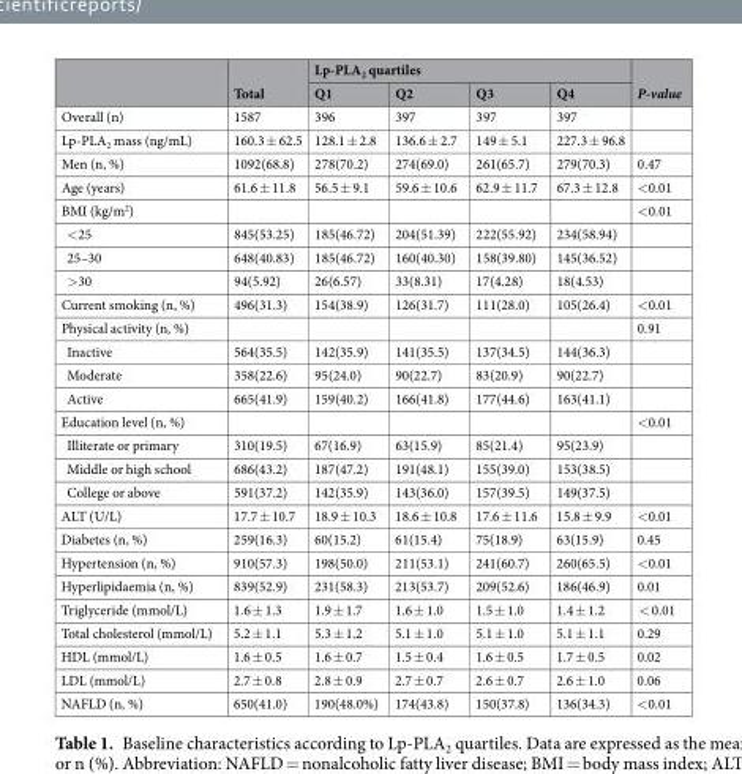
<table><thead><tr><td rowspan="2"></td><td rowspan="2">Total</td><td colspan="4">Lp-PLA<sub>2</sub> quartiles</td><td rowspan="2">P-value</td></tr><tr><td>Q1</td><td>Q2</td><td>Q3</td><td>Q4</td></tr></thead><tbody><tr><td>Overall (n)</td><td>1587</td><td>396</td><td>397</td><td>397</td><td>397</td><td></td></tr><tr><td>Lp-PLA<sub>2</sub> mass (ng/mL)</td><td>160.3 ± 62.5</td><td>128.1 ± 2.8</td><td>136.6 ± 2.7</td><td>149 ± 5.1</td><td>227.3 ± 96.8</td><td></td></tr><tr><td>Men (n, %)</td><td>1092(68.8)</td><td>278(70.2)</td><td>274(69.0)</td><td>261(65.7)</td><td>279(70.3)</td><td>0.47</td></tr><tr><td>Age (years)</td><td>61.6 ± 11.8</td><td>56.5 ± 9.1</td><td>59.6 ± 10.6</td><td>62.9 ± 11.7</td><td>67.3 ± 12.8</td><td>&lt;0.01</td></tr><tr><td>BMI (kg/m<sup>2</sup>)</td><td></td><td></td><td></td><td></td><td></td><td>&lt;0.01</td></tr><tr><td>&lt;25</td><td>845(53.25)</td><td>185(46.72)</td><td>204(51.39)</td><td>222(55.92)</td><td>234(58.94)</td><td></td></tr><tr><td>25–30</td><td>648(40.83)</td><td>185(46.72)</td><td>160(40.30)</td><td>158(39.80)</td><td>145(36.52)</td><td></td></tr><tr><td>&gt;30</td><td>94(5.92)</td><td>26(6.57)</td><td>33(8.31)</td><td>17(4.28)</td><td>18(4.53)</td><td></td></tr><tr><td>Current smoking (n, %)</td><td>496(31.3)</td><td>154(38.9)</td><td>126(31.7)</td><td>111(28.0)</td><td>105(26.4)</td><td>&lt;0.01</td></tr><tr><td>Physical activity (n, %)</td><td></td><td></td><td></td><td></td><td></td><td>0.91</td></tr><tr><td>Inactive</td><td>564(35.5)</td><td>142(35.9)</td><td>141(35.5)</td><td>137(34.5)</td><td>144(36.3)</td><td></td></tr><tr><td>Moderate</td><td>358(22.6)</td><td>95(24.0)</td><td>90(22.7)</td><td>83(20.9)</td><td>90(22.7)</td><td></td></tr><tr><td>Active</td><td>665(41.9)</td><td>159(40.2)</td><td>166(41.8)</td><td>177(44.6)</td><td>163(41.1)</td><td></td></tr><tr><td>Education level (n, %)</td><td></td><td></td><td></td><td></td><td></td><td>&lt;0.01</td></tr><tr><td>Illiterate or primary</td><td>310(19.5)</td><td>67(16.9)</td><td>63(15.9)</td><td>85(21.4)</td><td>95(23.9)</td><td></td></tr><tr><td>Middle or high school</td><td>686(43.2)</td><td>187(47.2)</td><td>191(48.1)</td><td>155(39.0)</td><td>153(38.5)</td><td></td></tr><tr><td>College or above</td><td>591(37.2)</td><td>142(35.9)</td><td>143(36.0)</td><td>157(39.5)</td><td>149(37.5)</td><td></td></tr><tr><td>ALT (U/L)</td><td>17.7 ± 10.7</td><td>18.9 ± 10.3</td><td>18.6 ± 10.8</td><td>17.6 ± 11.6</td><td>15.8 ± 9.9</td><td>&lt;0.01</td></tr><tr><td>Diabetes (n, %)</td><td>259(16.3)</td><td>60(15.2)</td><td>61(15.4)</td><td>75(18.9)</td><td>63(15.9)</td><td>0.45</td></tr><tr><td>Hypertension (n, %)</td><td>910(57.3)</td><td>198(50.0)</td><td>211(53.1)</td><td>241(60.7)</td><td>260(65.5)</td><td>&lt;0.01</td></tr><tr><td>Hyperlipidaemia (n, %)</td><td>839(52.9)</td><td>231(58.3)</td><td>213(53.7)</td><td>209(52.6)</td><td>186(46.9)</td><td>0.01</td></tr><tr><td>Triglyceride (mmol/L)</td><td>1.6 ± 1.3</td><td>1.9 ± 1.7</td><td>1.6 ± 1.0</td><td>1.5 ± 1.0</td><td>1.4 ± 1.2</td><td>&lt; 0.01</td></tr><tr><td>Total cholesterol (mmol/L)</td><td>5.2 ± 1.1</td><td>5.3 ± 1.2</td><td>5.1 ± 1.0</td><td>5.1 ± 1.0</td><td>5.1 ± 1.1</td><td>0.29</td></tr><tr><td>HDL (mmol/L)</td><td>1.6 ± 0.5</td><td>1.6 ± 0.7</td><td>1.5 ± 0.4</td><td>1.6 ± 0.5</td><td>1.7 ± 0.5</td><td>0.02</td></tr><tr><td>LDL (mmol/L)</td><td>2.7 ± 0.8</td><td>2.8 ± 0.9</td><td>2.7 ± 0.7</td><td>2.6 ± 0.7</td><td>2.6 ± 1.0</td><td>0.06</td></tr><tr><td>NAFLD (n, %)</td><td>650(41.0)</td><td>190(48.0%)</td><td>174(43.8)</td><td>150(37.8)</td><td>136(34.3)</td><td>&lt;0.01</td></tr></tbody></table>